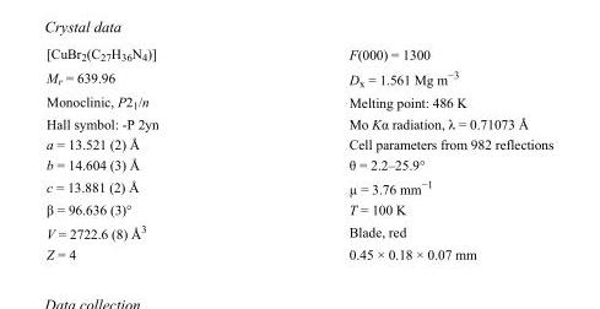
<table><tbody><tr><td>[CuBr<sub>2</sub>(C<sub>27</sub>H<sub>36</sub>N<sub>4</sub>)]</td><td>F(000) = 1300</td></tr><tr><td>M<sub>r</sub> = 639.96</td><td>D<sub>x</sub> = 1.561 Mg m<sup>−3</sup></td></tr><tr><td>Monoclinic, P2<sub>1</sub>/n</td><td>Melting point: 486 K</td></tr><tr><td>Hall symbol: -P 2yn</td><td>Mo Kα radiation, λ = 0.71073 Å</td></tr><tr><td>a = 13.521 (2) Å</td><td>Cell parameters from 982 reflections</td></tr><tr><td>b = 14.604 (3) Å</td><td>θ = 2.2–25.9°</td></tr><tr><td>c = 13.881 (2) Å</td><td>µ = 3.76 mm<sup>−1</sup></td></tr><tr><td>β = 96.636 (3)°</td><td>T = 100 K</td></tr><tr><td>V = 2722.6 (8) Å<sup>3</sup></td><td>Blade, red</td></tr><tr><td>Z = 4</td><td>0.45 × 0.18 × 0.07 mm</td></tr></tbody></table>